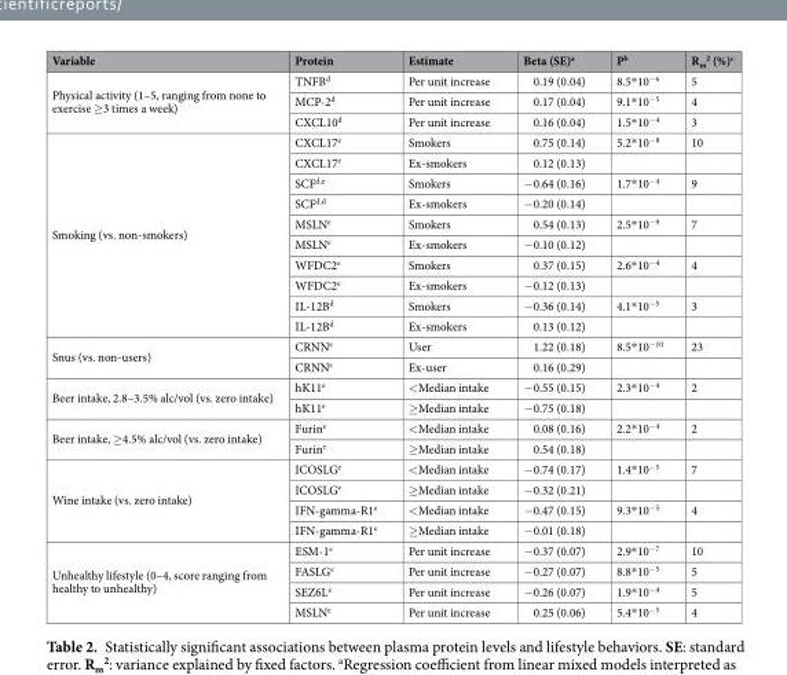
<table><thead><tr><td>Variable</td><td>Protein</td><td>Estimate</td><td>Beta (SE)<sup>a</sup></td><td>P<sup>b</sup></td><td>R<sub>m</sub> <sup>2</sup> (%)<sup>c</sup></td></tr></thead><tbody><tr><td rowspan="3">Physical activity (1–5, ranging from none to exercise ≥3 times a week)</td><td>TNFB<sup>d</sup></td><td>Per unit increase</td><td>0.19 (0.04)</td><td>8.5*10<sup>−6</sup></td><td>5</td></tr><tr><td>MCP-2<sup>d</sup></td><td>Per unit increase</td><td>0.17 (0.04)</td><td>9.1*10<sup>−5</sup></td><td>4</td></tr><tr><td>CXCL10<sup>d</sup></td><td>Per unit increase</td><td>0.16 (0.04)</td><td>1.5*10<sup>−4</sup></td><td>3</td></tr><tr><td rowspan="10">Smoking (vs. non-smokers)</td><td>CXCL17<sup>e</sup></td><td>Smokers</td><td>0.75 (0.14)</td><td>5.2*10<sup>−8</sup></td><td>10</td></tr><tr><td>CXCL17<sup>e</sup></td><td>Ex-smokers</td><td>0.12 (0.13)</td><td></td><td></td></tr><tr><td>SCF<sup>d,e</sup></td><td>Smokers</td><td>−0.64 (0.16)</td><td>1.7*10<sup>−4</sup></td><td>9</td></tr><tr><td>SCF<sup>d,d</sup></td><td>Ex-smokers</td><td>−0.20 (0.14)</td><td></td><td></td></tr><tr><td>MSLN<sup>e</sup></td><td>Smokers</td><td>0.54 (0.13)</td><td>2.5*10<sup>−9</sup></td><td>7</td></tr><tr><td>MSLN<sup>e</sup></td><td>Ex-smokers</td><td>−0.10 (0.12)</td><td></td><td></td></tr><tr><td>WFDC2<sup>e</sup></td><td>Smokers</td><td>0.37 (0.15)</td><td>2.6*10<sup>−4</sup></td><td>4</td></tr><tr><td>WFDC2<sup>e</sup></td><td>Ex-smokers</td><td>−0.12 (0.13)</td><td></td><td></td></tr><tr><td>IL-12B<sup>d</sup></td><td>Smokers</td><td>−0.36 (0.14)</td><td>4.1*10<sup>−5</sup></td><td>3</td></tr><tr><td>IL-12B<sup>d</sup></td><td>Ex-smokers</td><td>0.13 (0.12)</td><td></td><td></td></tr><tr><td rowspan="2">Snus (vs. non-users)</td><td>CRNN<sup>e</sup></td><td>User</td><td>1.22 (0.18)</td><td>8.5*10<sup>−10</sup></td><td>23</td></tr><tr><td>CRNN<sup>e</sup></td><td>Ex-user</td><td>0.16 (0.29)</td><td></td><td></td></tr><tr><td rowspan="2">Beer intake, 2.8–3.5% alc/vol (vs. zero intake)</td><td>hK11<sup>e</sup></td><td>&lt;Median intake</td><td>−0.55 (0.15)</td><td>2.3*10<sup>−4</sup></td><td>2</td></tr><tr><td>hK11<sup>e</sup></td><td>≥Median intake</td><td>−0.75 (0.18)</td><td></td><td></td></tr><tr><td rowspan="2">Beer intake, ≥4.5% alc/vol (vs. zero intake)</td><td>Furin<sup>e</sup></td><td>&lt;Median intake</td><td>0.08 (0.16)</td><td>2.2*10<sup>−4</sup></td><td>2</td></tr><tr><td>Furin<sup>e</sup></td><td>≥Median intake</td><td>0.54 (0.18)</td><td></td><td></td></tr><tr><td rowspan="4">Wine intake (vs. zero intake)</td><td>ICOSLG<sup>e</sup></td><td>&lt;Median intake</td><td>−0.74 (0.17)</td><td>1.4*10<sup>−5</sup></td><td>7</td></tr><tr><td>ICOSLG<sup>e</sup></td><td>≥Median intake</td><td>−0.32 (0.21)</td><td></td><td></td></tr><tr><td>IFN-gamma-R1<sup>e</sup></td><td>&lt;Median intake</td><td>−0.47 (0.15)</td><td>9.3*10<sup>−5</sup></td><td>4</td></tr><tr><td>IFN-gamma-R1<sup>e</sup></td><td>≥Median intake</td><td>−0.01 (0.18)</td><td></td><td></td></tr><tr><td rowspan="4">Unhealthy lifestyle (0–4, score ranging from healthy to unhealthy)</td><td>ESM-1<sup>e</sup></td><td>Per unit increase</td><td>−0.37 (0.07)</td><td>2.9*10<sup>−7</sup></td><td>10</td></tr><tr><td>FASLG<sup>e</sup></td><td>Per unit increase</td><td>−0.27 (0.07)</td><td>8.8*10<sup>−5</sup></td><td>5</td></tr><tr><td>SEZ6L<sup>e</sup></td><td>Per unit increase</td><td>−0.26 (0.07)</td><td>1.9*10<sup>−4</sup></td><td>5</td></tr><tr><td>MSLN<sup>e</sup></td><td>Per unit increase</td><td>0.25 (0.06)</td><td>5.4*10<sup>−5</sup></td><td>4</td></tr></tbody></table>